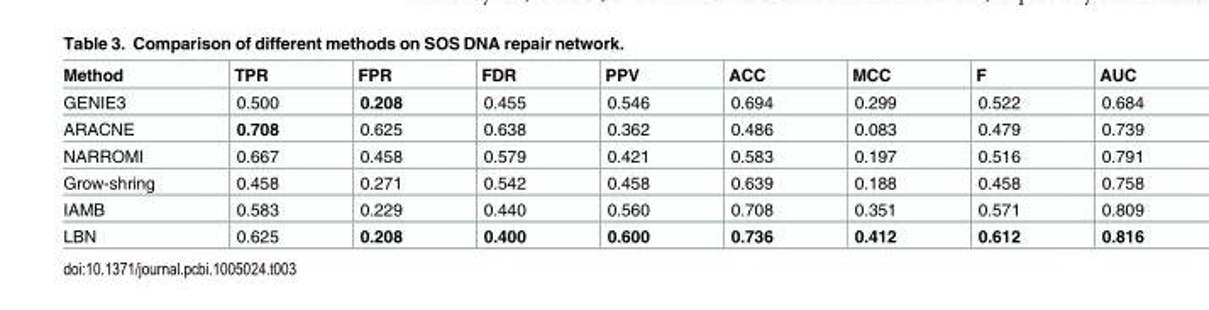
<table><thead><tr><td>Method</td><td>TPR</td><td>FPR</td><td>FDR</td><td>PPV</td><td>ACC</td><td>MCC</td><td>F</td><td>AUC</td></tr></thead><tbody><tr><td>GENIE3</td><td>0.500</td><td>0.208</td><td>0.455</td><td>0.546</td><td>0.694</td><td>0.299</td><td>0.522</td><td>0.684</td></tr><tr><td>ARACNE</td><td>0.708</td><td>0.625</td><td>0.638</td><td>0.362</td><td>0.486</td><td>0.083</td><td>0.479</td><td>0.739</td></tr><tr><td>NARROMI</td><td>0.667</td><td>0.458</td><td>0.579</td><td>0.421</td><td>0.583</td><td>0.197</td><td>0.516</td><td>0.791</td></tr><tr><td>Grow-shring</td><td>0.458</td><td>0.271</td><td>0.542</td><td>0.458</td><td>0.639</td><td>0.188</td><td>0.458</td><td>0.758</td></tr><tr><td>IAMB</td><td>0.583</td><td>0.229</td><td>0.440</td><td>0.560</td><td>0.708</td><td>0.351</td><td>0.571</td><td>0.809</td></tr><tr><td>LBN</td><td>0.625</td><td>0.208</td><td>0.400</td><td>0.600</td><td>0.736</td><td>0.412</td><td>0.612</td><td>0.816</td></tr></tbody></table>